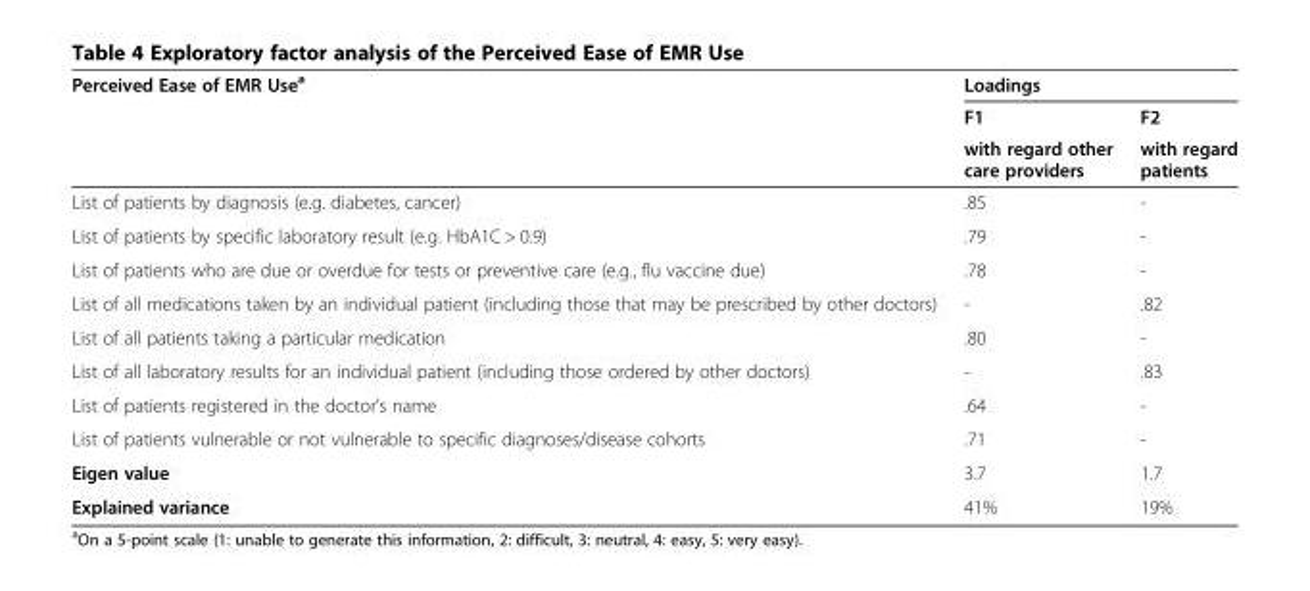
<table><thead><tr><td rowspan="3">Perceived Ease of EMR Use<sup>a</sup></td><td colspan="2">Loadings</td></tr><tr><td rowspan="2">F1 with regard other care providers</td><td rowspan="2">F2 with regard patients</td></tr><tr></tr></thead><tbody><tr><td>List of patients by diagnosis (e.g. diabetes, cancer)</td><td>.85</td><td>-</td></tr><tr><td>List of patients by specific laboratory result (e.g. HbA1C &gt; 0.9)</td><td>.79</td><td>-</td></tr><tr><td>List of patients who are due or overdue for tests or preventive care (e.g., flu vaccine due)</td><td>.78</td><td>-</td></tr><tr><td>List of all medications taken by an individual patient (including those that may be prescribed by other doctors)</td><td>-</td><td>.82</td></tr><tr><td>List of all patients taking a particular medication</td><td>.80</td><td>-</td></tr><tr><td>List of all laboratory results for an individual patient (including those ordered by other doctors)</td><td>-</td><td>.83</td></tr><tr><td>List of patients registered in the doctor’s name</td><td>.64</td><td>-</td></tr><tr><td>List of patients vulnerable or not vulnerable to specific diagnoses/disease cohorts</td><td>.71</td><td>-</td></tr><tr><td>Eigen value</td><td>3.7</td><td>1.7</td></tr><tr><td>Explained variance</td><td>41%</td><td>19%</td></tr></tbody></table>